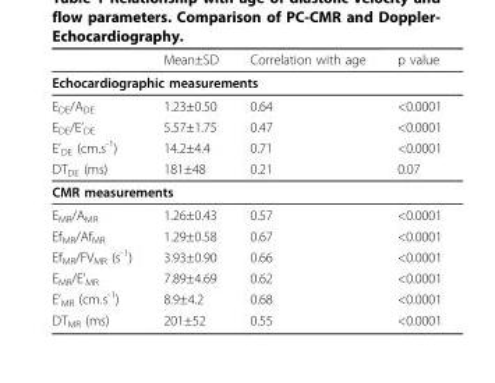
<table><thead><tr><td></td><td>Mean±SD</td><td>Correlation with age</td><td>p value</td></tr></thead><tbody><tr><td colspan="4">Echocardiographic measurements</td></tr><tr><td>E<sub>DE</sub>/A<sub>DE</sub></td><td>1.23±0.50</td><td>0.64</td><td>&lt;0.0001</td></tr><tr><td>E<sub>DE</sub>/E’<sub>DE</sub></td><td>5.57±1.75</td><td>0.47</td><td>&lt;0.0001</td></tr><tr><td>E’<sub>DE</sub> (cm.s<sup>-1</sup>)</td><td>14.2±4.4</td><td>0.71</td><td>&lt;0.0001</td></tr><tr><td>DT<sub>DE</sub> (ms)</td><td>181±48</td><td>0.21</td><td>0.07</td></tr><tr><td colspan="4">CMR measurements</td></tr><tr><td>E<sub>MR</sub>/A<sub>MR</sub></td><td>1.26±0.43</td><td>0.57</td><td>&lt;0.0001</td></tr><tr><td>Ef<sub>MR</sub>/Af<sub>MR</sub></td><td>1.29±0.58</td><td>0.67</td><td>&lt;0.0001</td></tr><tr><td>Ef<sub>MR</sub>/FV<sub>MR</sub> (s<sup>-1</sup>)</td><td>3.93±0.90</td><td>0.66</td><td>&lt;0.0001</td></tr><tr><td>E<sub>MR</sub>/E’<sub>MR</sub></td><td>7.89±4.69</td><td>0.62</td><td>&lt;0.0001</td></tr><tr><td>E’<sub>MR</sub> (cm.s<sup>-1</sup>)</td><td>8.9±4.2</td><td>0.68</td><td>&lt;0.0001</td></tr><tr><td>DT<sub>MR</sub> (ms)</td><td>201±52</td><td>0.55</td><td>&lt;0.0001</td></tr></tbody></table>